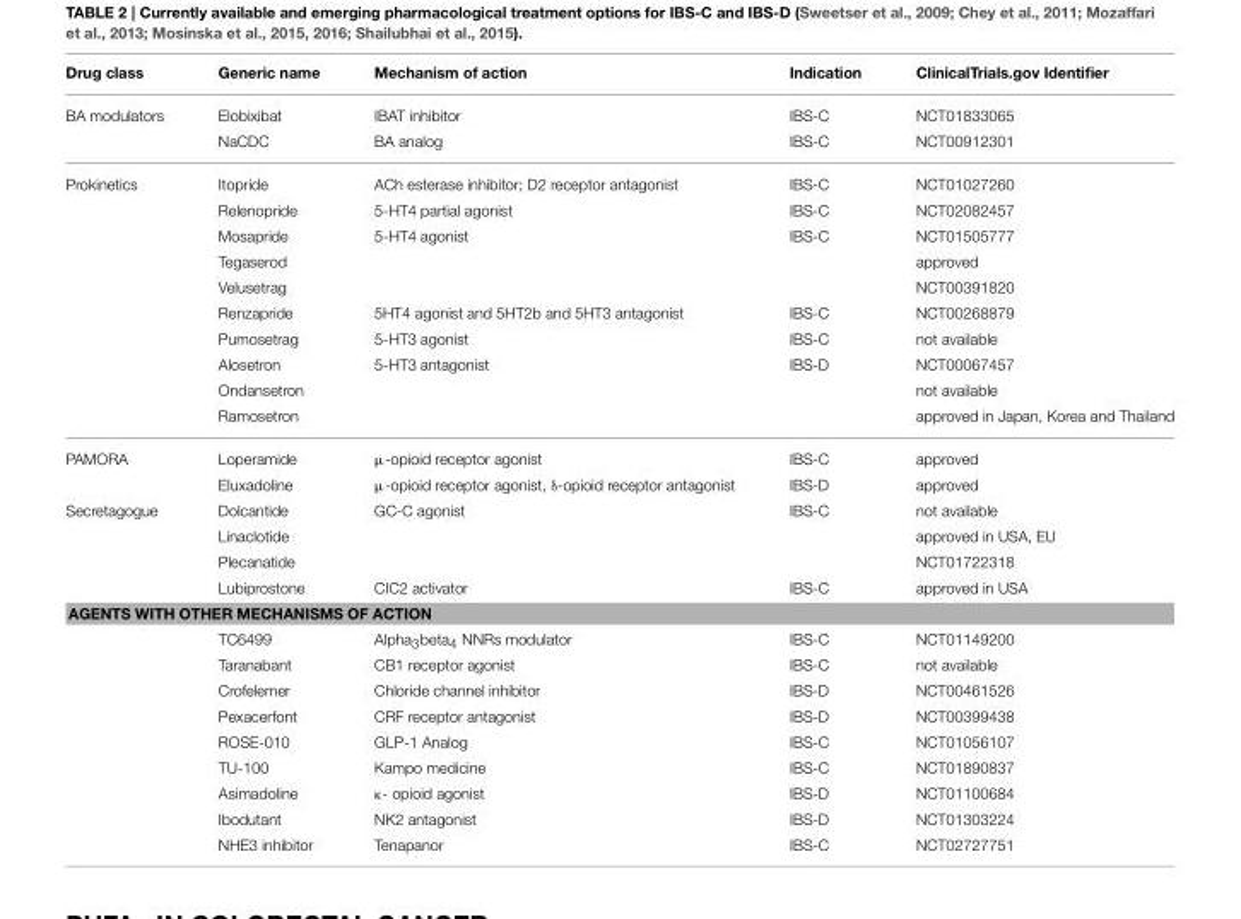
<table><thead><tr><td>Drug class</td><td>Generic name</td><td>Mechanism of action</td><td>Indication</td><td>ClinicalTrials.gov Identifier</td></tr></thead><tbody><tr><td rowspan="2">BA modulators</td><td>Elobixibat</td><td>IBAT inhibitor</td><td>IBS-C</td><td>NCT01833065</td></tr><tr><td>NaCDC</td><td>BA analog</td><td>IBS-C</td><td>NCT00912301</td></tr><tr><td rowspan="10">Prokinetics</td><td>Itopride</td><td>ACh esterase inhibitor; D2 receptor antagonist</td><td>IBS-C</td><td>NCT01027260</td></tr><tr><td>Relenopride</td><td>5-HT4 partial agonist</td><td>IBS-C</td><td>NCT02082457</td></tr><tr><td>Mosapride</td><td>5-HT4 agonist</td><td>IBS-C</td><td>NCT01505777</td></tr><tr><td>Tegaserod</td><td></td><td></td><td>approved</td></tr><tr><td>Velusetrag</td><td></td><td></td><td>NCT00391820</td></tr><tr><td>Renzapride</td><td>5HT4 agonist and 5HT2b and 5HT3 antagonist</td><td>IBS-C</td><td>NCT00268879</td></tr><tr><td>Pumosetrag</td><td>5-HT3 agonist</td><td>IBS-C</td><td>not available</td></tr><tr><td>Alosetron</td><td>5-HT3 antagonist</td><td>IBS-D</td><td>NCT00067457</td></tr><tr><td>Ondansetron</td><td></td><td></td><td>not available</td></tr><tr><td>Ramosetron</td><td></td><td></td><td>approved in Japan, Korea and Thailand</td></tr><tr><td rowspan="2">PAMORA</td><td>Loperamide</td><td>µ-opioid receptor agonist</td><td>IBS-C</td><td>approved</td></tr><tr><td>Eluxadoline</td><td>µ-opioid receptor agonist, δ-opioid receptor antagonist</td><td>IBS-D</td><td>approved</td></tr><tr><td rowspan="4">Secretagogue</td><td>Dolcantide</td><td>GC-C agonist</td><td>IBS-C</td><td>not available</td></tr><tr><td>Linaclotide</td><td></td><td></td><td>approved in USA, EU</td></tr><tr><td>Plecanatide</td><td></td><td></td><td>NCT01722318</td></tr><tr><td>Lubiprostone</td><td>CIC2 activator</td><td>IBS-C</td><td>approved in USA</td></tr><tr><td colspan="5">AGENTS WITH OTHER MECHANISMS OF ACTION</td></tr><tr><td></td><td>TC6499</td><td>Alpha<sub>3</sub>beta<sub>4</sub> NNRs modulator</td><td>IBS-C</td><td>NCT01149200</td></tr><tr><td></td><td>Taranabant</td><td>CB1 receptor agonist</td><td>IBS-C</td><td>not available</td></tr><tr><td></td><td>Crofelemer</td><td>Chloride channel inhibitor</td><td>IBS-D</td><td>NCT00461526</td></tr><tr><td></td><td>Pexacerfont</td><td>CRF receptor antagonist</td><td>IBS-D</td><td>NCT00399438</td></tr><tr><td></td><td>ROSE-010</td><td>GLP-1 Analog</td><td>IBS-C</td><td>NCT01056107</td></tr><tr><td></td><td>TU-100</td><td>Kampo medicine</td><td>IBS-C</td><td>NCT01890837</td></tr><tr><td></td><td>Asimadoline</td><td>κ- opioid agonist</td><td>IBS-D</td><td>NCT01100684</td></tr><tr><td></td><td>Ibodutant</td><td>NK2 antagonist</td><td>IBS-D</td><td>NCT01303224</td></tr><tr><td></td><td>NHE3 inhibitor</td><td>Tenapanor</td><td>IBS-C</td><td>NCT02727751</td></tr></tbody></table>